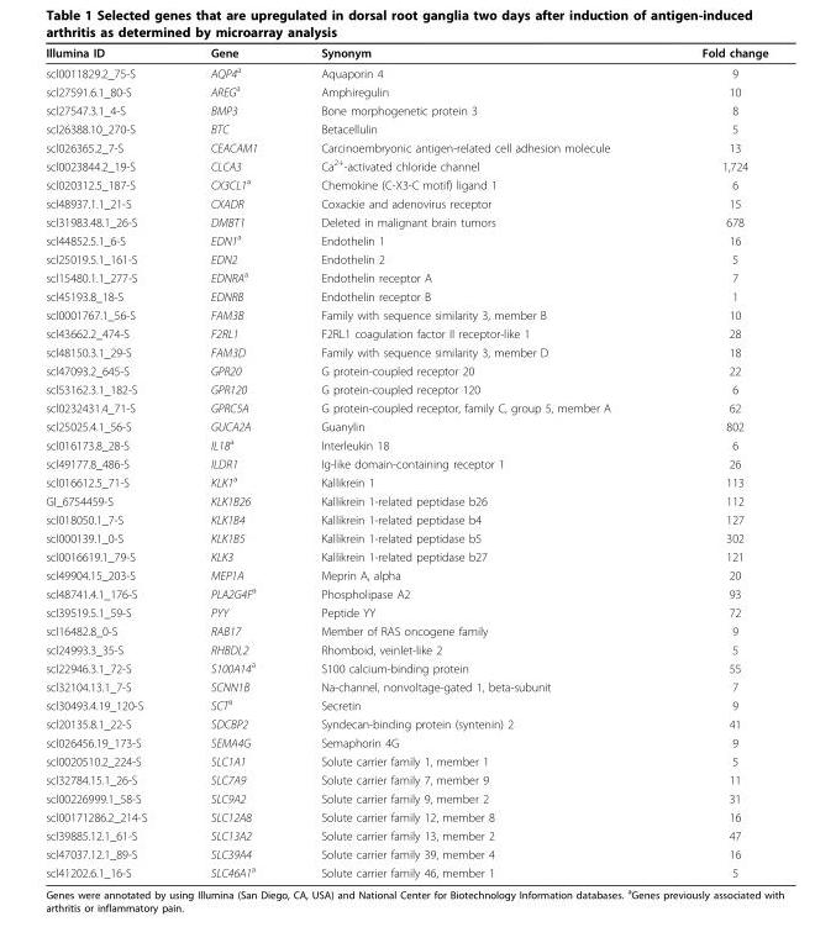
<table><thead><tr><td>Illumina ID</td><td>Gene</td><td>Synonym</td><td>Fold change</td></tr></thead><tbody><tr><td>scl0011829.2_75-S</td><td>AQP4<sup>a</sup></td><td>Aquaporin 4</td><td>9</td></tr><tr><td>scl27591.6.1_80-S</td><td>AREG<sup>a</sup></td><td>Amphiregulin</td><td>10</td></tr><tr><td>scl27547.3.1_4-S</td><td>BMP3</td><td>Bone morphogenetic protein 3</td><td>8</td></tr><tr><td>scl26388.10_270-S</td><td>BTC</td><td>Betacellulin</td><td>5</td></tr><tr><td>scl026365.2_7-S</td><td>CEACAM1</td><td>Carcinoembryonic antigen-related cell adhesion molecule</td><td>13</td></tr><tr><td>scl0023844.2_19-S</td><td>CLCA3</td><td>Ca<sup>2+</sup>-activated chloride channel</td><td>1,724</td></tr><tr><td>scl020312.5_187-S</td><td>CX3CL1<sup>a</sup></td><td>Chemokine (C-X3-C motif) ligand 1</td><td>6</td></tr><tr><td>scl48937.1.1_21-S</td><td>CXADR</td><td>Coxackie and adenovirus receptor</td><td>15</td></tr><tr><td>scl31983.48.1_26-S</td><td>DMBT1</td><td>Deleted in malignant brain tumors</td><td>678</td></tr><tr><td>scl44852.5.1_6-S</td><td>EDN1<sup>a</sup></td><td>Endothelin 1</td><td>16</td></tr><tr><td>scl25019.5.1_161-S</td><td>EDN2</td><td>Endothelin 2</td><td>5</td></tr><tr><td>scl15480.1.1_277-S</td><td>EDNRA<sup>a</sup></td><td>Endothelin receptor A</td><td>7</td></tr><tr><td>scl45193.8_18-S</td><td>EDNRB</td><td>Endothelin receptor B</td><td>1</td></tr><tr><td>scl0001767.1_56-S</td><td>FAM3B</td><td>Family with sequence similarity 3, member B</td><td>10</td></tr><tr><td>scl43662.2_474-S</td><td>F2RL1</td><td>F2RL1 coagulation factor II receptor-like 1</td><td>28</td></tr><tr><td>scl48150.3.1_29-S</td><td>FAM3D</td><td>Family with sequence similarity 3, member D</td><td>18</td></tr><tr><td>scl47093.2_645-S</td><td>GPR20</td><td>G protein-coupled receptor 20</td><td>22</td></tr><tr><td>scl53162.3.1_182-S</td><td>GPR120</td><td>G protein-coupled receptor 120</td><td>6</td></tr><tr><td>scl0232431.4_71-S</td><td>GPRC5A</td><td>G protein-coupled receptor, family C, group 5, member A</td><td>62</td></tr><tr><td>scl25025.4.1_56-S</td><td>GUCA2A</td><td>Guanylin</td><td>802</td></tr><tr><td>scl016173.8_28-S</td><td>IL18<sup>a</sup></td><td>Interleukin 18</td><td>6</td></tr><tr><td>scl49177.8_486-S</td><td>ILDR1</td><td>Ig-like domain-containing receptor 1</td><td>26</td></tr><tr><td>scl016612.5_71-S</td><td>KLK1<sup>a</sup></td><td>Kallikrein 1</td><td>113</td></tr><tr><td>GI_6754459-S</td><td>KLK1B26</td><td>Kallikrein 1-related peptidase b26</td><td>112</td></tr><tr><td>scl018050.1_7-S</td><td>KLK1B4</td><td>Kallikrein 1-related peptidase b4</td><td>127</td></tr><tr><td>scl000139.1_0-S</td><td>KLK1B5</td><td>Kallikrein 1-related peptidase b5</td><td>302</td></tr><tr><td>scl0016619.1_79-S</td><td>KLK3</td><td>Kallikrein 1-related peptidase b27</td><td>121</td></tr><tr><td>scl49904.15_203-S</td><td>MEP1A</td><td>Meprin A, alpha</td><td>20</td></tr><tr><td>scl48741.4.1_176-S</td><td>PLA2G4F<sup>a</sup></td><td>Phospholipase A2</td><td>93</td></tr><tr><td>scl39519.5.1_59-S</td><td>PYY</td><td>Peptide YY</td><td>72</td></tr><tr><td>scl16482.8_0-S</td><td>RAB17</td><td>Member of RAS oncogene family</td><td>9</td></tr><tr><td>scl24993.3_35-S</td><td>RHBDL2</td><td>Rhomboid, veinlet-like 2</td><td>5</td></tr><tr><td>scl22946.3.1_72-S</td><td>S100A14<sup>a</sup></td><td>S100 calcium-binding protein</td><td>55</td></tr><tr><td>scl32104.13.1_7-S</td><td>SCNN1B</td><td>Na-channel, nonvoltage-gated 1, beta-subunit</td><td>7</td></tr><tr><td>scl30493.4.19_120-S</td><td>SCT<sup>a</sup></td><td>Secretin</td><td>9</td></tr><tr><td>scl20135.8.1_22-S</td><td>SDCBP2</td><td>Syndecan-binding protein (syntenin) 2</td><td>41</td></tr><tr><td>scl026456.19_173-S</td><td>SEMA4G</td><td>Semaphorin 4G</td><td>9</td></tr><tr><td>scl0020510.2_224-S</td><td>SLC1A1</td><td>Solute carrier family 1, member 1</td><td>5</td></tr><tr><td>scl32784.15.1_26-S</td><td>SLC7A9</td><td>Solute carrier family 7, member 9</td><td>11</td></tr><tr><td>scl00226999.1_58-S</td><td>SLC9A2</td><td>Solute carrier family 9, member 2</td><td>31</td></tr><tr><td>scl00171286.2_214-S</td><td>SLC12A8</td><td>Solute carrier family 12, member 8</td><td>16</td></tr><tr><td>scl39885.12.1_61-S</td><td>SLC13A2</td><td>Solute carrier family 13, member 2</td><td>47</td></tr><tr><td>scl47037.12.1_89-S</td><td>SLC39A4</td><td>Solute carrier family 39, member 4</td><td>16</td></tr><tr><td>scl41202.6.1_16-S</td><td>SLC46A1<sup>a</sup></td><td>Solute carrier family 46, member 1</td><td>5</td></tr></tbody></table>